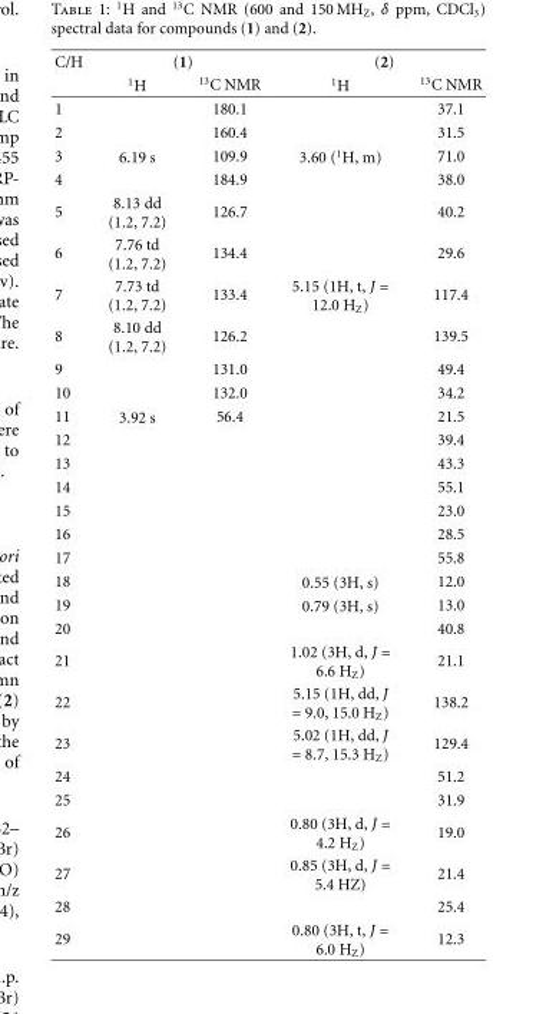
<table><thead><tr><td rowspan="2">C/H</td><td colspan="2">(1)</td><td colspan="2">(2)</td></tr><tr><td><sup>1</sup>H</td><td><sup>13</sup>C NMR</td><td><sup>1</sup>H</td><td><sup>13</sup>C NMR</td></tr></thead><tbody><tr><td>1</td><td></td><td>180.1</td><td></td><td>37.1</td></tr><tr><td>2</td><td></td><td>160.4</td><td></td><td>31.5</td></tr><tr><td>3</td><td>6.19 s</td><td>109.9</td><td>3.60 (<sup>1</sup>H, m)</td><td>71.0</td></tr><tr><td>4</td><td></td><td>184.9</td><td></td><td>38.0</td></tr><tr><td>5</td><td>8.13 dd (1.2, 7.2)</td><td>126.7</td><td></td><td>40.2</td></tr><tr><td>6</td><td>7.76 td (1.2, 7.2)</td><td>134.4</td><td></td><td>29.6</td></tr><tr><td>7</td><td>7.73 td (1.2, 7.2)</td><td>133.4</td><td>5.15 (1H, t, J = 12.0 H<sub>Z</sub>)</td><td>117.4</td></tr><tr><td>8</td><td>8.10 dd (1.2, 7.2)</td><td>126.2</td><td></td><td>139.5</td></tr><tr><td>9</td><td></td><td>131.0</td><td></td><td>49.4</td></tr><tr><td>10</td><td></td><td>132.0</td><td></td><td>34.2</td></tr><tr><td>11</td><td>3.92 s</td><td>56.4</td><td></td><td>21.5</td></tr><tr><td>12</td><td></td><td></td><td></td><td>39.4</td></tr><tr><td>13</td><td></td><td></td><td></td><td>43.3</td></tr><tr><td>14</td><td></td><td></td><td></td><td>55.1</td></tr><tr><td>15</td><td></td><td></td><td></td><td>23.0</td></tr><tr><td>16</td><td></td><td></td><td></td><td>28.5</td></tr><tr><td>17</td><td></td><td></td><td></td><td>55.8</td></tr><tr><td>18</td><td></td><td></td><td>0.55 (3H, s)</td><td>12.0</td></tr><tr><td>19</td><td></td><td></td><td>0.79 (3H, s)</td><td>13.0</td></tr><tr><td>20</td><td></td><td></td><td></td><td>40.8</td></tr><tr><td>21</td><td></td><td></td><td>1.02 (3H, d, J = 6.6 H<sub>Z</sub>)</td><td>21.1</td></tr><tr><td>22</td><td></td><td></td><td>5.15 (1H, dd, J = 9.0, 15.0 H<sub>Z</sub>)</td><td>138.2</td></tr><tr><td>23</td><td></td><td></td><td>5.02 (1H, dd, J = 8.7, 15.3 H<sub>Z</sub>)</td><td>129.4</td></tr><tr><td>24</td><td></td><td></td><td></td><td>51.2</td></tr><tr><td>25</td><td></td><td></td><td></td><td>31.9</td></tr><tr><td>26</td><td></td><td></td><td>0.80 (3H, d, J = 4.2 H<sub>Z</sub>)</td><td>19.0</td></tr><tr><td>27</td><td></td><td></td><td>0.85 (3H, d, J = 5.4 HZ)</td><td>21.4</td></tr><tr><td>28</td><td></td><td></td><td></td><td>25.4</td></tr><tr><td>29</td><td></td><td></td><td>0.80 (3H, t, J = 6.0 H<sub>Z</sub>)</td><td>12.3</td></tr></tbody></table>